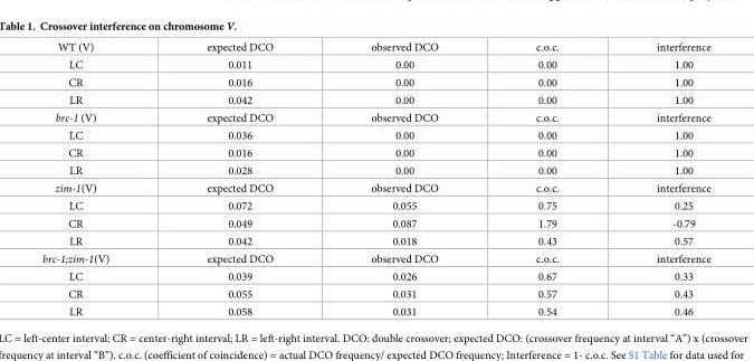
<table><tbody><tr><td>WT (V)</td><td>expected DCO</td><td>observed DCO</td><td>c.o.c.</td><td>interference</td></tr><tr><td>LC</td><td>0.011</td><td>0.00</td><td>0.00</td><td>1.00</td></tr><tr><td>CR</td><td>0.016</td><td>0.00</td><td>0.00</td><td>1.00</td></tr><tr><td>LR</td><td>0.042</td><td>0.00</td><td>0.00</td><td>1.00</td></tr><tr><td>brc-1 (V)</td><td>expected DCO</td><td>observed DCO</td><td>c.o.c.</td><td>interference</td></tr><tr><td>LC</td><td>0.036</td><td>0.00</td><td>0.00</td><td>1.00</td></tr><tr><td>CR</td><td>0.016</td><td>0.00</td><td>0.00</td><td>1.00</td></tr><tr><td>LR</td><td>0.028</td><td>0.00</td><td>0.00</td><td>1.00</td></tr><tr><td>zim-1(V)</td><td>expected DCO</td><td>observed DCO</td><td>c.o.c.</td><td>interference</td></tr><tr><td>LC</td><td>0.072</td><td>0.055</td><td>0.75</td><td>0.25</td></tr><tr><td>CR</td><td>0.049</td><td>0.087</td><td>1.79</td><td>-0.79</td></tr><tr><td>LR</td><td>0.042</td><td>0.018</td><td>0.43</td><td>0.57</td></tr><tr><td>brc-1;zim-1(V)</td><td>expected DCO</td><td>observed DCO</td><td>c.o.c.</td><td>interference</td></tr><tr><td>LC</td><td>0.039</td><td>0.026</td><td>0.67</td><td>0.33</td></tr><tr><td>CR</td><td>0.055</td><td>0.031</td><td>0.57</td><td>0.43</td></tr><tr><td>LR</td><td>0.058</td><td>0.031</td><td>0.54</td><td>0.46</td></tr></tbody></table>